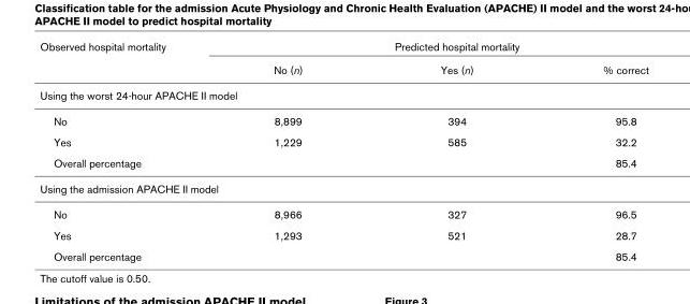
<table><thead><tr><td rowspan="2">Observed hospital mortality</td><td colspan="3">Predicted hospital mortality</td></tr><tr><td>No (n)</td><td>Yes (n)</td><td>% correct</td></tr></thead><tbody><tr><td colspan="4">Using the worst 24-hour APACHE II model</td></tr><tr><td>No</td><td>8,899</td><td>394</td><td>95.8</td></tr><tr><td>Yes</td><td>1,229</td><td>585</td><td>32.2</td></tr><tr><td>Overall percentage</td><td></td><td></td><td>85.4</td></tr><tr><td colspan="4">Using the admission APACHE II model</td></tr><tr><td>No</td><td>8,966</td><td>327</td><td>96.5</td></tr><tr><td>Yes</td><td>1,293</td><td>521</td><td>28.7</td></tr><tr><td>Overall percentage</td><td></td><td></td><td>85.4</td></tr></tbody></table>